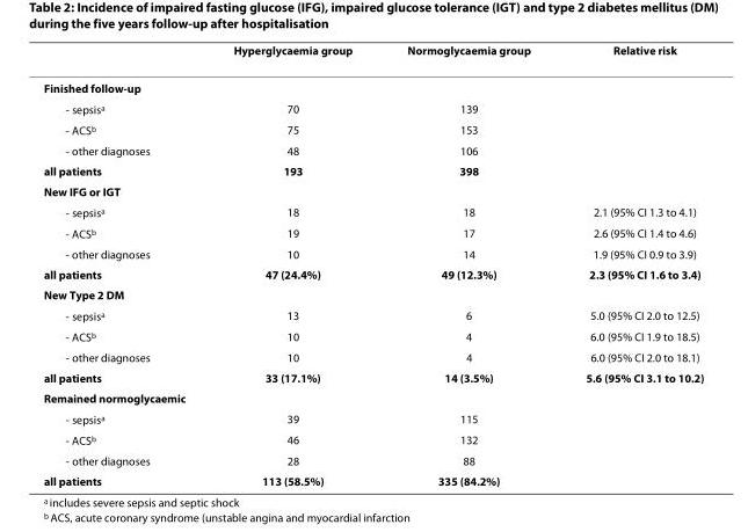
<table><thead><tr><td></td><td>Hyperglycaemia group</td><td>Normoglycaemia group</td><td>Relative risk</td></tr></thead><tbody><tr><td colspan="4">Finished follow-up</td></tr><tr><td>- sepsis<sup>a</sup></td><td>70</td><td>139</td><td></td></tr><tr><td>- ACS<sup>b</sup></td><td>75</td><td>153</td><td></td></tr><tr><td>- other diagnoses</td><td>48</td><td>106</td><td></td></tr><tr><td>all patients</td><td>193</td><td>398</td><td></td></tr><tr><td colspan="4">New IFG or IGT</td></tr><tr><td>- sepsis<sup>a</sup></td><td>18</td><td>18</td><td>2.1 (95% CI 1.3 to 4.1)</td></tr><tr><td>- ACS<sup>b</sup></td><td>19</td><td>17</td><td>2.6 (95% CI 1.4 to 4.6)</td></tr><tr><td>- other diagnoses</td><td>10</td><td>14</td><td>1.9 (95% CI 0.9 to 3.9)</td></tr><tr><td>all patients</td><td>47 (24.4%)</td><td>49 (12.3%)</td><td>2.3 (95% CI 1.6 to 3.4)</td></tr><tr><td colspan="4">New Type 2 DM</td></tr><tr><td>- sepsis<sup>a</sup></td><td>13</td><td>6</td><td>5.0 (95% CI 2.0 to 12.5)</td></tr><tr><td>- ACS<sup>b</sup></td><td>10</td><td>4</td><td>6.0 (95% CI 1.9 to 18.5)</td></tr><tr><td>- other diagnoses</td><td>10</td><td>4</td><td>6.0 (95% CI 2.0 to 18.1)</td></tr><tr><td>all patients</td><td>33 (17.1%)</td><td>14 (3.5%)</td><td>5.6 (95% CI 3.1 to 10.2)</td></tr><tr><td colspan="4">Remained normoglycaemic</td></tr><tr><td>- sepsis<sup>a</sup></td><td>39</td><td>115</td><td></td></tr><tr><td>- ACS<sup>b</sup></td><td>46</td><td>132</td><td></td></tr><tr><td>- other diagnoses</td><td>28</td><td>88</td><td></td></tr><tr><td>all patients</td><td>113 (58.5%)</td><td>335 (84.2%)</td><td></td></tr></tbody></table>